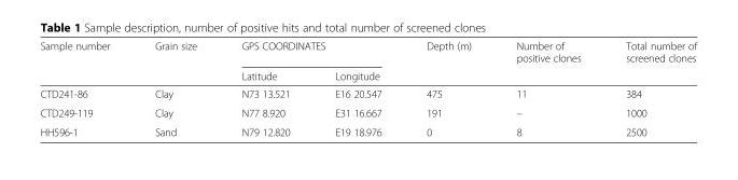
<table><thead><tr><td rowspan="2">Sample number</td><td rowspan="2">Grain size</td><td colspan="2">GPS COORDINATES</td><td rowspan="2">Depth (m)</td><td rowspan="2">Number of positive clones</td><td rowspan="2">Total number of screened clones</td></tr><tr><td>Latitude</td><td>Longitude</td></tr></thead><tbody><tr><td>CTD241-86</td><td>Clay</td><td>N73 13.521</td><td>E16 20.547</td><td>475</td><td>11</td><td>384</td></tr><tr><td>CTD249-119</td><td>Clay</td><td>N77 8.920</td><td>E31 16.667</td><td>191</td><td>–</td><td>1000</td></tr><tr><td>HH596-1</td><td>Sand</td><td>N79 12.820</td><td>E19 18.976</td><td>0</td><td>8</td><td>2500</td></tr></tbody></table>